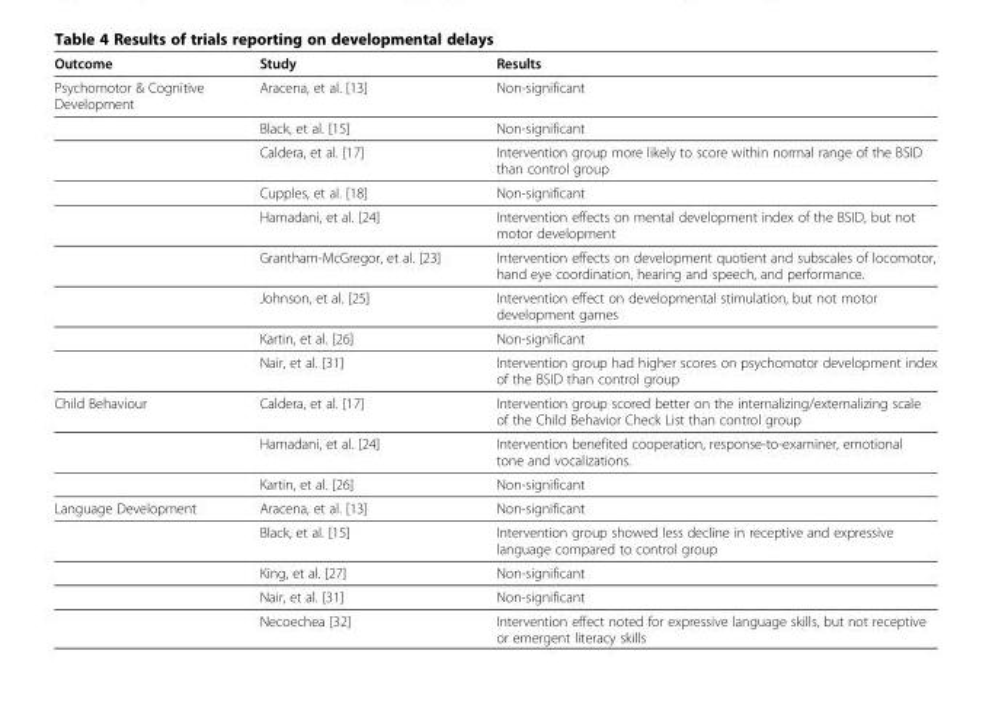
<table><thead><tr><td>Outcome</td><td>Study</td><td>Results</td></tr></thead><tbody><tr><td rowspan="9">Psychomotor &amp; Cognitive Development</td><td>Aracena, et al. [13]</td><td>Non-significant</td></tr><tr><td>Black, et al. [15]</td><td>Non-significant</td></tr><tr><td>Caldera, et al. [17]</td><td>Intervention group more likely to score within normal range of the BSID than control group</td></tr><tr><td>Cupples, et al. [18]</td><td>Non-significant</td></tr><tr><td>Hamadani, et al. [24]</td><td>Intervention effects on mental development index of the BSID, but not motor development</td></tr><tr><td>Grantham-McGregor, et al. [23]</td><td>Intervention effects on development quotient and subscales of locomotor, hand eye coordination, hearing and speech, and performance.</td></tr><tr><td>Johnson, et al. [25]</td><td>Intervention effect on developmental stimulation, but not motor development games</td></tr><tr><td>Kartin, et al. [26]</td><td>Non-significant</td></tr><tr><td>Nair, et al. [31]</td><td>Intervention group had higher scores on psychomotor development index of the BSID than control group</td></tr><tr><td rowspan="3">Child Behaviour</td><td>Caldera, et al. [17]</td><td>Intervention group scored better on the internalizing/externalizing scale of the Child Behavior Check List than control group</td></tr><tr><td>Hamadani, et al. [24]</td><td>Intervention benefited cooperation, response-to-examiner, emotional tone and vocalizations.</td></tr><tr><td>Kartin, et al. [26]</td><td>Non-significant</td></tr><tr><td rowspan="5">Language Development</td><td>Aracena, et al. [13]</td><td>Non-significant</td></tr><tr><td>Black, et al. [15]</td><td>Intervention group showed less decline in receptive and expressive language compared to control group</td></tr><tr><td>King, et al. [27]</td><td>Non-significant</td></tr><tr><td>Nair, et al. [31]</td><td>Non-significant</td></tr><tr><td>Necoechea [32]</td><td>Intervention effect noted for expressive language skills, but not receptive or emergent literacy skills</td></tr></tbody></table>